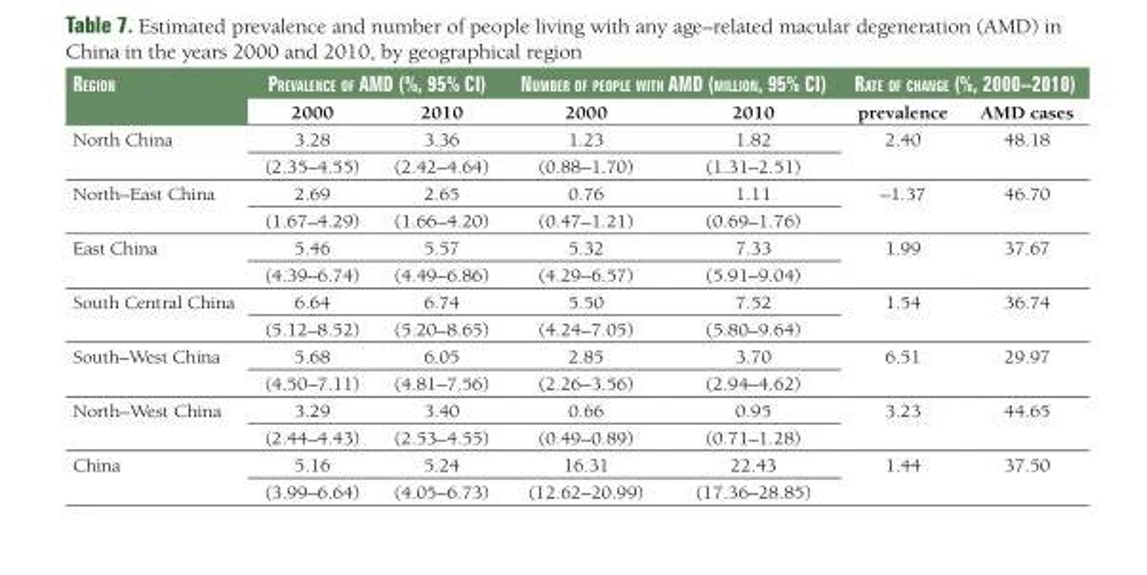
<table><thead><tr><td rowspan="2">Region</td><td colspan="2">pRevalence of amd (%, 95% ci)</td><td colspan="2">numbeR of people with amd (million, 95% ci)</td><td colspan="2">Rate of change (%, 2000–2010)</td></tr><tr><td>2000</td><td>2010</td><td>2000</td><td>2010</td><td>prevalence</td><td>AMD cases</td></tr></thead><tbody><tr><td rowspan="2">North China</td><td>3.28</td><td>3.36</td><td>1.23</td><td>1.82</td><td rowspan="2">2.40</td><td rowspan="2">48.18</td></tr><tr><td>(2.35–4.55)</td><td>(2.42–4.64)</td><td>(0.88–1.70)</td><td>(1.31–2.51)</td></tr><tr><td rowspan="2">North–East China</td><td>2.69</td><td>2.65</td><td>0.76</td><td>1.11</td><td rowspan="2">–1.37</td><td rowspan="2">46.70</td></tr><tr><td>(1.67–4.29)</td><td>(1.66–4.20)</td><td>(0.47–1.21)</td><td>(0.69–1.76)</td></tr><tr><td rowspan="2">East China</td><td>5.46</td><td>5.57</td><td>5.32</td><td>7.33</td><td rowspan="2">1.99</td><td rowspan="2">37.67</td></tr><tr><td>(4.39–6.74)</td><td>(4.49–6.86)</td><td>(4.29–6.57)</td><td>(5.91–9.04)</td></tr><tr><td rowspan="2">South Central China</td><td>6.64</td><td>6.74</td><td>5.50</td><td>7.52</td><td rowspan="2">1.54</td><td rowspan="2">36.74</td></tr><tr><td>(5.12–8.52)</td><td>(5.20–8.65)</td><td>(4.24–7.05)</td><td>(5.80–9.64)</td></tr><tr><td rowspan="2">South–West China</td><td>5.68</td><td>6.05</td><td>2.85</td><td>3.70</td><td rowspan="2">6.51</td><td rowspan="2">29.97</td></tr><tr><td>(4.50–7.11)</td><td>(4.81–7.56)</td><td>(2.26–3.56)</td><td>(2.94–4.62)</td></tr><tr><td rowspan="2">North–West China</td><td>3.29</td><td>3.40</td><td>0.66</td><td>0.95</td><td rowspan="2">3.23</td><td rowspan="2">44.65</td></tr><tr><td>(2.44–4.43)</td><td>(2.53–4.55)</td><td>(0.49–0.89)</td><td>(0.71–1.28)</td></tr><tr><td rowspan="2">China</td><td>5.16</td><td>5.24</td><td>16.31</td><td>22.43</td><td rowspan="2">1.44</td><td rowspan="2">37.50</td></tr><tr><td>(3.99–6.64)</td><td>(4.05–6.73)</td><td>(12.62–20.99)</td><td>(17.36–28.85)</td></tr></tbody></table>